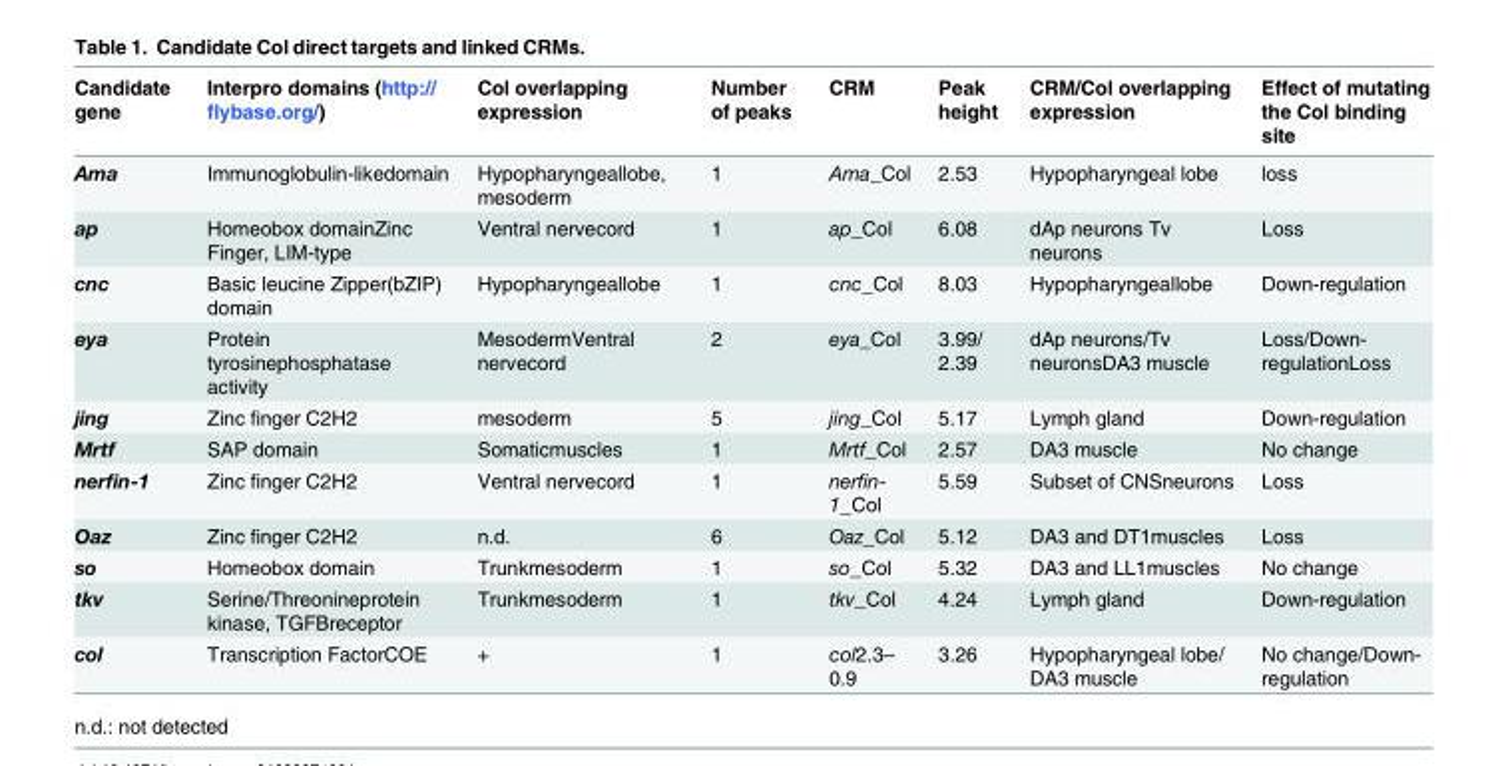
<table><thead><tr><td>Candidate gene</td><td>Interpro domains (http:// flybase.org/)</td><td>Col overlapping expression</td><td>Number of peaks</td><td>CRM</td><td>Peak height</td><td>CRM/Col overlapping expression</td><td>Effect of mutating the Col binding site</td></tr></thead><tbody><tr><td>Ama</td><td>Immunoglobulin-likedomain</td><td>Hypopharyngeallobe, mesoderm</td><td>1</td><td>Ama_Col</td><td>2.53</td><td>Hypopharyngeal lobe</td><td>loss</td></tr><tr><td>ap</td><td>Homeobox domainZinc Finger, LIM-type</td><td>Ventral nervecord</td><td>1</td><td>ap_Col</td><td>6.08</td><td>dAp neurons Tv neurons</td><td>Loss</td></tr><tr><td>cnc</td><td>Basic leucine Zipper(bZIP) domain</td><td>Hypopharyngeallobe</td><td>1</td><td>cnc_Col</td><td>8.03</td><td>Hypopharyngeallobe</td><td>Down-regulation</td></tr><tr><td>eya</td><td>Protein tyrosinephosphatase activity</td><td>MesodermVentral nervecord</td><td>2</td><td>eya_Col</td><td>3.99/ 2.39</td><td>dAp neurons/Tv neuronsDA3 muscle</td><td>Loss/Down- regulationLoss</td></tr><tr><td>jing</td><td>Zinc finger C2H2</td><td>mesoderm</td><td>5</td><td>jing_Col</td><td>5.17</td><td>Lymph gland</td><td>Down-regulation</td></tr><tr><td>Mrtf</td><td>SAP domain</td><td>Somaticmuscles</td><td>1</td><td>Mrtf_Col</td><td>2.57</td><td>DA3 muscle</td><td>No change</td></tr><tr><td>nerfin-1</td><td>Zinc finger C2H2</td><td>Ventral nervecord</td><td>1</td><td>nerfin- 1_Col</td><td>5.59</td><td>Subset of CNSneurons</td><td>Loss</td></tr><tr><td>Oaz</td><td>Zinc finger C2H2</td><td>n.d.</td><td>6</td><td>Oaz_Col</td><td>5.12</td><td>DA3 and DT1muscles</td><td>Loss</td></tr><tr><td>so</td><td>Homeobox domain</td><td>Trunkmesoderm</td><td>1</td><td>so_Col</td><td>5.32</td><td>DA3 and LL1muscles</td><td>No change</td></tr><tr><td>tkv</td><td>Serine/Threonineprotein kinase, TGFBreceptor</td><td>Trunkmesoderm</td><td>1</td><td>tkv_Col</td><td>4.24</td><td>Lymph gland</td><td>Down-regulation</td></tr><tr><td>col</td><td>Transcription FactorCOE</td><td>+</td><td>1</td><td>col2.3– 0.9</td><td>3.26</td><td>Hypopharyngeal lobe/ DA3 muscle</td><td>No change/Down- regulation</td></tr></tbody></table>